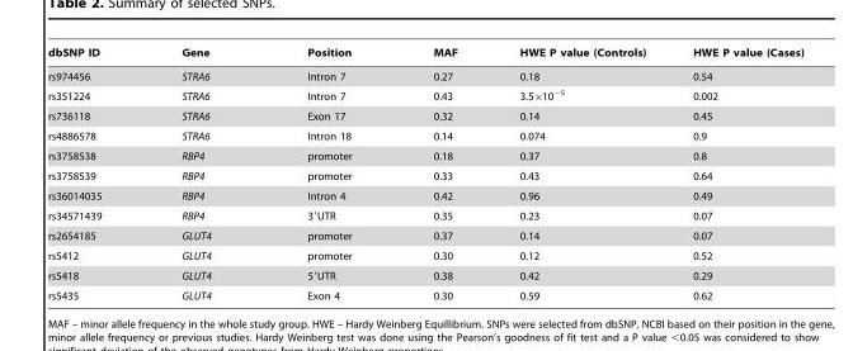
<table><thead><tr><td>dbSNP ID</td><td>Gene</td><td>Position</td><td>MAF</td><td>HWE P value (Controls)</td><td>HWE P value (Cases)</td></tr></thead><tbody><tr><td>rs974456</td><td>STRA6</td><td>Intron 7</td><td>0.27</td><td>0.18</td><td>0.54</td></tr><tr><td>rs351224</td><td>STRA6</td><td>Intron 7</td><td>0.43</td><td>3.5×10<sup>−5</sup></td><td>0.002</td></tr><tr><td>rs736118</td><td>STRA6</td><td>Exon 17</td><td>0.32</td><td>0.14</td><td>0.45</td></tr><tr><td>rs4886578</td><td>STRA6</td><td>Intron 18</td><td>0.14</td><td>0.074</td><td>0.9</td></tr><tr><td>rs3758538</td><td>RBP4</td><td>promoter</td><td>0.18</td><td>0.37</td><td>0.8</td></tr><tr><td>rs3758539</td><td>RBP4</td><td>promoter</td><td>0.33</td><td>0.43</td><td>0.64</td></tr><tr><td>rs36014035</td><td>RBP4</td><td>Intron 4</td><td>0.42</td><td>0.96</td><td>0.49</td></tr><tr><td>rs34571439</td><td>RBP4</td><td>3′UTR</td><td>0.35</td><td>0.23</td><td>0.07</td></tr><tr><td>rs2654185</td><td>GLUT4</td><td>promoter</td><td>0.37</td><td>0.14</td><td>0.07</td></tr><tr><td>rs5412</td><td>GLUT4</td><td>promoter</td><td>0.30</td><td>0.12</td><td>0.52</td></tr><tr><td>rs5418</td><td>GLUT4</td><td>5′UTR</td><td>0.38</td><td>0.42</td><td>0.29</td></tr><tr><td>rs5435</td><td>GLUT4</td><td>Exon 4</td><td>0.30</td><td>0.59</td><td>0.62</td></tr></tbody></table>